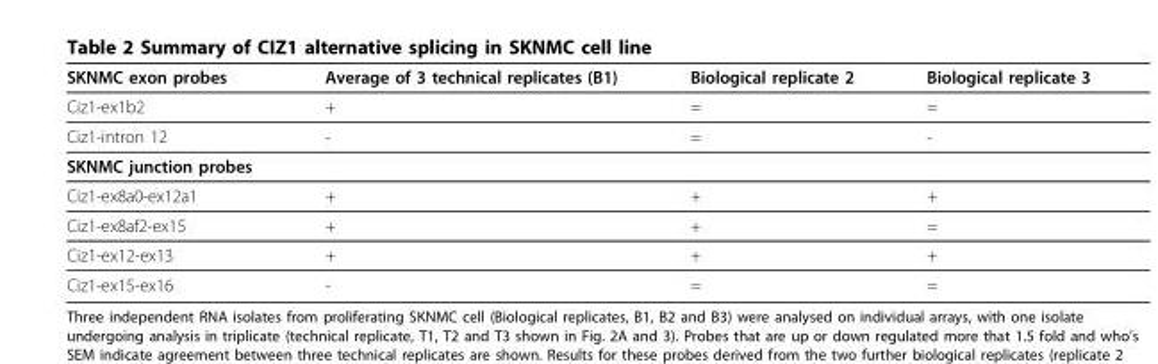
<table><thead><tr><td>SKNMC exon probes</td><td>Average of 3 technical replicates (B1)</td><td>Biological replicate 2</td><td>Biological replicate 3</td></tr></thead><tbody><tr><td>Ciz1-ex1b2</td><td>+</td><td>=</td><td>=</td></tr><tr><td>Ciz1-intron 12</td><td>-</td><td>=</td><td>-</td></tr><tr><td colspan="4">SKNMC junction probes</td></tr><tr><td>Ciz1-ex8a0-ex12a1</td><td>+</td><td>+</td><td>+</td></tr><tr><td>Ciz1-ex8af2-ex15</td><td>+</td><td>+</td><td>=</td></tr><tr><td>Ciz1-ex12-ex13</td><td>+</td><td>+</td><td>+</td></tr><tr><td>Ciz1-ex15-ex16</td><td>-</td><td>=</td><td>=</td></tr></tbody></table>